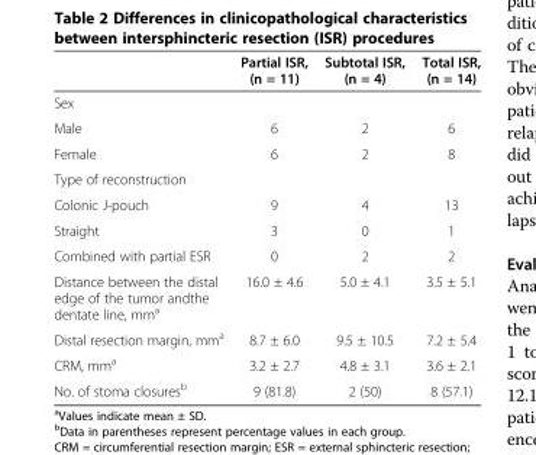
<table><thead><tr><td></td><td>Partial ISR, (n = 11)</td><td>Subtotal ISR, (n = 4)</td><td>Total ISR, (n = 14)</td></tr></thead><tbody><tr><td colspan="4">Sex</td></tr><tr><td>Male</td><td>6</td><td>2</td><td>6</td></tr><tr><td>Female</td><td>6</td><td>2</td><td>8</td></tr><tr><td colspan="4">Type of reconstruction</td></tr><tr><td>Colonic J-pouch</td><td>9</td><td>4</td><td>13</td></tr><tr><td>Straight</td><td>3</td><td>0</td><td>1</td></tr><tr><td>Combined with partial ESR</td><td>0</td><td>2</td><td>2</td></tr><tr><td>Distance between the distal edge of the tumor andthe dentate line, mm<sup>a</sup></td><td>16.0 ± 4.6</td><td>5.0 ± 4.1</td><td>3.5 ± 5.1</td></tr><tr><td>Distal resection margin, mm<sup>a</sup></td><td>8.7 ± 6.0</td><td>9.5 ± 10.5</td><td>7.2 ± 5.4</td></tr><tr><td>CRM, mm<sup>a</sup></td><td>3.2 ± 2.7</td><td>4.8 ± 3.1</td><td>3.6 ± 2.1</td></tr><tr><td>No. of stoma closures<sup>b</sup></td><td>9 (81.8)</td><td>2 (50)</td><td>8 (57.1)</td></tr></tbody></table>